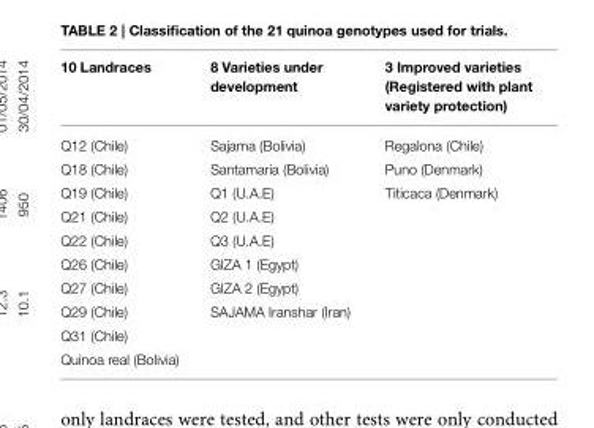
<table><thead><tr><td>10 Landraces</td><td>8 Varieties under development</td><td>3 Improved varieties (Registered with plant variety protection)</td></tr></thead><tbody><tr><td>Q12 (Chile)</td><td>Sajama (Bolivia)</td><td>Regalona (Chile)</td></tr><tr><td>Q18 (Chile)</td><td>Santamaria (Bolivia)</td><td>Puno (Denmark)</td></tr><tr><td>Q19 (Chile)</td><td>Q1 (U.A.E)</td><td>Titicaca (Denmark)</td></tr><tr><td>Q21 (Chile)</td><td>Q2 (U.A.E)</td><td></td></tr><tr><td>Q22 (Chile)</td><td>Q3 (U.A.E)</td><td></td></tr><tr><td>Q26 (Chile)</td><td>GIZA 1 (Egypt)</td><td></td></tr><tr><td>Q27 (Chile)</td><td>GIZA 2 (Egypt)</td><td></td></tr><tr><td>Q29 (Chile)</td><td>SAJAMA Iranshar (Iran)</td><td></td></tr><tr><td colspan="3">Q31 (Chile)</td></tr><tr><td>Quinoa real (Bolivia)</td><td></td><td></td></tr></tbody></table>